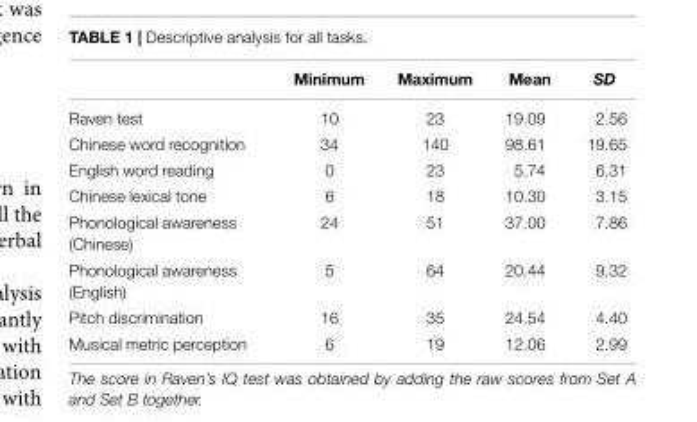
<table><thead><tr><td></td><td>Minimum</td><td>Maximum</td><td>Mean</td><td>SD</td></tr></thead><tbody><tr><td>Raven test</td><td>10</td><td>23</td><td>19.09</td><td>2.56</td></tr><tr><td>Chinese word recognition</td><td>34</td><td>140</td><td>98.61</td><td>19.65</td></tr><tr><td>English word reading</td><td>0</td><td>23</td><td>5.74</td><td>6.31</td></tr><tr><td>Chinese lexical tone</td><td>6</td><td>18</td><td>10.30</td><td>3.15</td></tr><tr><td>Phonological awareness (Chinese)</td><td>24</td><td>51</td><td>37.00</td><td>7.86</td></tr><tr><td>Phonological awareness (English)</td><td>5</td><td>64</td><td>20.44</td><td>9.32</td></tr><tr><td>Pitch discrimination</td><td>16</td><td>35</td><td>24.54</td><td>4.40</td></tr><tr><td>Musical metric perception</td><td>6</td><td>19</td><td>12.06</td><td>2.99</td></tr></tbody></table>